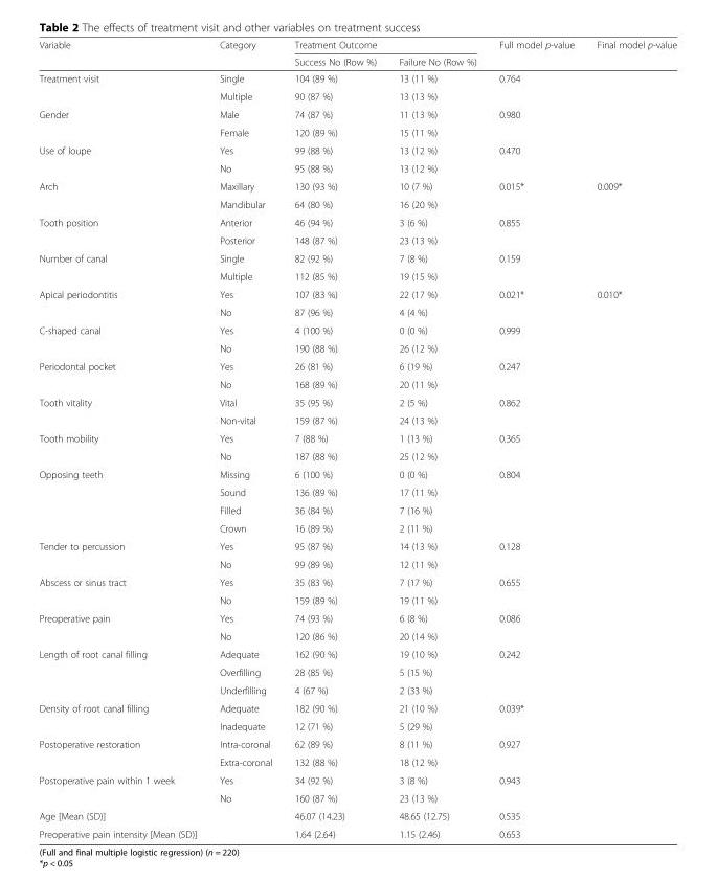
<table><thead><tr><td rowspan="2">Variable</td><td rowspan="2">Category</td><td colspan="2">Treatment Outcome</td><td rowspan="2">Full model p-value</td><td rowspan="2">Final model p-value</td></tr><tr><td>Success No (Row %)</td><td>Failure No (Row %)</td></tr></thead><tbody><tr><td rowspan="2">Treatment visit</td><td>Single</td><td>104 (89 %)</td><td>13 (11 %)</td><td>0.764</td><td></td></tr><tr><td>Multiple</td><td>90 (87 %)</td><td>13 (13 %)</td><td></td><td></td></tr><tr><td rowspan="2">Gender</td><td>Male</td><td>74 (87 %)</td><td>11 (13 %)</td><td>0.980</td><td></td></tr><tr><td>Female</td><td>120 (89 %)</td><td>15 (11 %)</td><td></td><td></td></tr><tr><td rowspan="2">Use of loupe</td><td>Yes</td><td>99 (88 %)</td><td>13 (12 %)</td><td>0.470</td><td></td></tr><tr><td>No</td><td>95 (88 %)</td><td>13 (12 %)</td><td></td><td></td></tr><tr><td rowspan="2">Arch</td><td>Maxillary</td><td>130 (93 %)</td><td>10 (7 %)</td><td>0.015*</td><td>0.009*</td></tr><tr><td>Mandibular</td><td>64 (80 %)</td><td>16 (20 %)</td><td></td><td></td></tr><tr><td rowspan="2">Tooth position</td><td>Anterior</td><td>46 (94 %)</td><td>3 (6 %)</td><td>0.855</td><td></td></tr><tr><td>Posterior</td><td>148 (87 %)</td><td>23 (13 %)</td><td></td><td></td></tr><tr><td rowspan="2">Number of canal</td><td>Single</td><td>82 (92 %)</td><td>7 (8 %)</td><td>0.159</td><td></td></tr><tr><td>Multiple</td><td>112 (85 %)</td><td>19 (15 %)</td><td></td><td></td></tr><tr><td rowspan="2">Apical periodontitis</td><td>Yes</td><td>107 (83 %)</td><td>22 (17 %)</td><td>0.021*</td><td>0.010*</td></tr><tr><td>No</td><td>87 (96 %)</td><td>4 (4 %)</td><td></td><td></td></tr><tr><td rowspan="2">C-shaped canal</td><td>Yes</td><td>4 (100 %)</td><td>0 (0 %)</td><td>0.999</td><td></td></tr><tr><td>No</td><td>190 (88 %)</td><td>26 (12 %)</td><td></td><td></td></tr><tr><td rowspan="2">Periodontal pocket</td><td>Yes</td><td>26 (81 %)</td><td>6 (19 %)</td><td>0.247</td><td></td></tr><tr><td>No</td><td>168 (89 %)</td><td>20 (11 %)</td><td></td><td></td></tr><tr><td rowspan="2">Tooth vitality</td><td>Vital</td><td>35 (95 %)</td><td>2 (5 %)</td><td>0.862</td><td></td></tr><tr><td>Non-vital</td><td>159 (87 %)</td><td>24 (13 %)</td><td></td><td></td></tr><tr><td rowspan="2">Tooth mobility</td><td>Yes</td><td>7 (88 %)</td><td>1 (13 %)</td><td>0.365</td><td></td></tr><tr><td>No</td><td>187 (88 %)</td><td>25 (12 %)</td><td></td><td></td></tr><tr><td rowspan="4">Opposing teeth</td><td>Missing</td><td>6 (100 %)</td><td>0 (0 %)</td><td>0.804</td><td></td></tr><tr><td>Sound</td><td>136 (89 %)</td><td>17 (11 %)</td><td></td><td></td></tr><tr><td>Filled</td><td>36 (84 %)</td><td>7 (16 %)</td><td></td><td></td></tr><tr><td>Crown</td><td>16 (89 %)</td><td>2 (11 %)</td><td></td><td></td></tr><tr><td rowspan="2">Tender to percussion</td><td>Yes</td><td>95 (87 %)</td><td>14 (13 %)</td><td>0.128</td><td></td></tr><tr><td>No</td><td>99 (89 %)</td><td>12 (11 %)</td><td></td><td></td></tr><tr><td rowspan="2">Abscess or sinus tract</td><td>Yes</td><td>35 (83 %)</td><td>7 (17 %)</td><td>0.655</td><td></td></tr><tr><td>No</td><td>159 (89 %)</td><td>19 (11 %)</td><td></td><td></td></tr><tr><td rowspan="2">Preoperative pain</td><td>Yes</td><td>74 (93 %)</td><td>6 (8 %)</td><td>0.086</td><td></td></tr><tr><td>No</td><td>120 (86 %)</td><td>20 (14 %)</td><td></td><td></td></tr><tr><td rowspan="3">Length of root canal filling</td><td>Adequate</td><td>162 (90 %)</td><td>19 (10 %)</td><td>0.242</td><td></td></tr><tr><td>Overfilling</td><td>28 (85 %)</td><td>5 (15 %)</td><td></td><td></td></tr><tr><td>Underfilling</td><td>4 (67 %)</td><td>2 (33 %)</td><td></td><td></td></tr><tr><td rowspan="2">Density of root canal filling</td><td>Adequate</td><td>182 (90 %)</td><td>21 (10 %)</td><td>0.039*</td><td></td></tr><tr><td>Inadequate</td><td>12 (71 %)</td><td>5 (29 %)</td><td></td><td></td></tr><tr><td rowspan="2">Postoperative restoration</td><td>Intra-coronal</td><td>62 (89 %)</td><td>8 (11 %)</td><td>0.927</td><td></td></tr><tr><td>Extra-coronal</td><td>132 (88 %)</td><td>18 (12 %)</td><td></td><td></td></tr><tr><td rowspan="2">Postoperative pain within 1 week</td><td>Yes</td><td>34 (92 %)</td><td>3 (8 %)</td><td>0.943</td><td></td></tr><tr><td>No</td><td>160 (87 %)</td><td>23 (13 %)</td><td></td><td></td></tr><tr><td>Age [Mean (SD)]</td><td></td><td>46.07 (14.23)</td><td>48.65 (12.75)</td><td>0.535</td><td></td></tr><tr><td>Preoperative pain intensity [Mean (SD)]</td><td></td><td>1.64 (2.64)</td><td>1.15 (2.46)</td><td>0.653</td><td></td></tr></tbody></table>